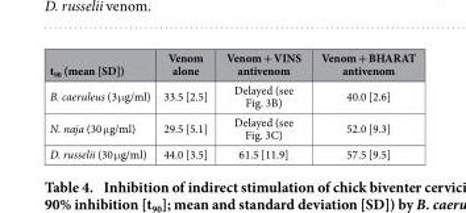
<table><thead><tr><td>t<sub>90</sub> (mean [SD])</td><td>Venom alone</td><td>Venom + VINS antivenom</td><td>Venom + BHARAT antivenom</td></tr></thead><tbody><tr><td>B. caeruleus (3 μ g/ml)</td><td>33.5 [2.5]</td><td>Delayed (see Fig. 3B)</td><td>40.0 [2.6]</td></tr><tr><td>N. naja (30 μ g/ml)</td><td>29.5 [5.1]</td><td>Delayed (see Fig. 3C)</td><td>52.0 [9.3]</td></tr><tr><td>D. russelii (30 μ g/ml)</td><td>44.0 [3.5]</td><td>61.5 [11.9]</td><td>57.5 [9.5]</td></tr></tbody></table>